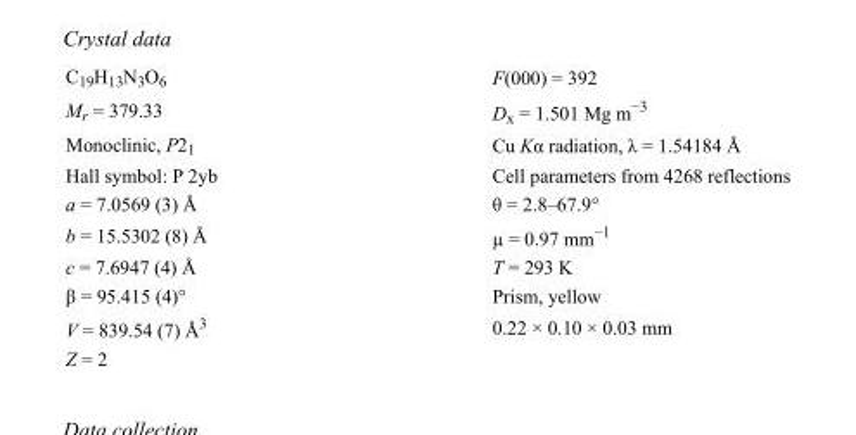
<table><tbody><tr><td>C<sub>19</sub>H<sub>13</sub>N<sub>3</sub>O<sub>6</sub></td><td>F(000) = 392</td></tr><tr><td>M<sub>r</sub> = 379.33</td><td>D<sub>x</sub> = 1.501 Mg m<sup>−3</sup></td></tr><tr><td>Monoclinic, P2<sub>1</sub></td><td>Cu Kα radiation, λ = 1.54184 Å</td></tr><tr><td>Hall symbol: P 2yb</td><td>Cell parameters from 4268 reflections</td></tr><tr><td>a = 7.0569 (3) Å</td><td>θ = 2.8–67.9°</td></tr><tr><td>b = 15.5302 (8) Å</td><td>µ = 0.97 mm<sup>−1</sup></td></tr><tr><td>c = 7.6947 (4) Å</td><td>T = 293 K</td></tr><tr><td>β = 95.415 (4)°</td><td>Prism, yellow</td></tr><tr><td>V = 839.54 (7) Å<sup>3</sup></td><td>0.22 × 0.10 × 0.03 mm</td></tr><tr><td>Z = 2</td><td></td></tr></tbody></table>